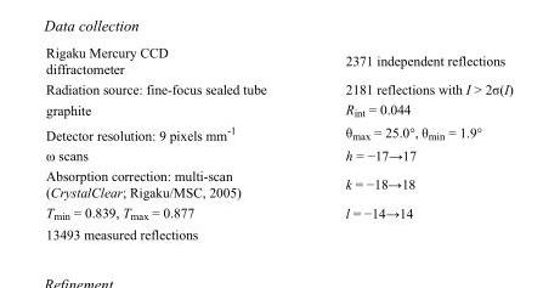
<table><tbody><tr><td>Rigaku Mercury CCD diffractometer</td><td>2371 independent reflections</td></tr><tr><td>Radiation source: fine-focus sealed tube</td><td>2181 reflections with I &gt; 2σ(I)</td></tr><tr><td>graphite</td><td>R<sub>int</sub> = 0.044</td></tr><tr><td>Detector resolution: 9 pixels mm<sup>-1</sup></td><td>θ<sub>max</sub> = 25.0°, θ<sub>min</sub> = 1.9°</td></tr><tr><td>ω scans</td><td>h = −17→17</td></tr><tr><td>Absorption correction: multi-scan (CrystalClear; Rigaku/MSC, 2005)</td><td>k = −18→18</td></tr><tr><td>T<sub>min</sub> = 0.839, T<sub>max</sub> = 0.877</td><td>l = −14→14</td></tr><tr><td>13493 measured reflections</td><td></td></tr></tbody></table>